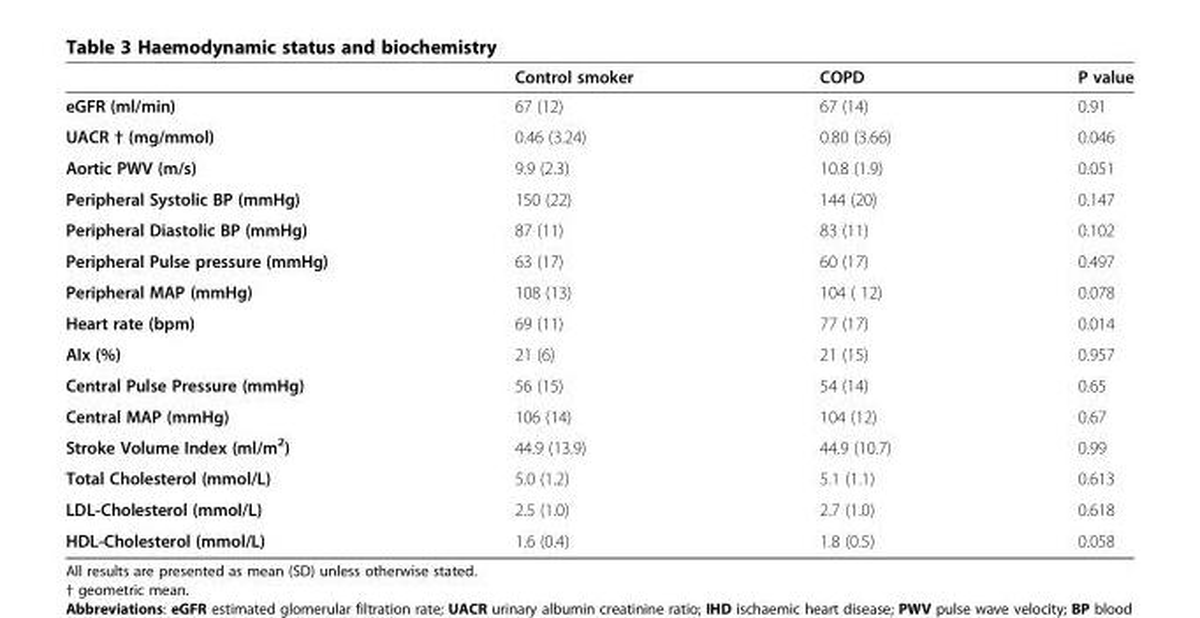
<table><thead><tr><td></td><td>Control smoker</td><td>COPD</td><td>P value</td></tr></thead><tbody><tr><td>eGFR (ml/min)</td><td>67 (12)</td><td>67 (14)</td><td>0.91</td></tr><tr><td>UACR † (mg/mmol)</td><td>0.46 (3.24)</td><td>0.80 (3.66)</td><td>0.046</td></tr><tr><td>Aortic PWV (m/s)</td><td>9.9 (2.3)</td><td>10.8 (1.9)</td><td>0.051</td></tr><tr><td>Peripheral Systolic BP (mmHg)</td><td>150 (22)</td><td>144 (20)</td><td>0.147</td></tr><tr><td>Peripheral Diastolic BP (mmHg)</td><td>87 (11)</td><td>83 (11)</td><td>0.102</td></tr><tr><td>Peripheral Pulse pressure (mmHg)</td><td>63 (17)</td><td>60 (17)</td><td>0.497</td></tr><tr><td>Peripheral MAP (mmHg)</td><td>108 (13)</td><td>104 ( 12)</td><td>0.078</td></tr><tr><td>Heart rate (bpm)</td><td>69 (11)</td><td>77 (17)</td><td>0.014</td></tr><tr><td>AIx (%)</td><td>21 (6)</td><td>21 (15)</td><td>0.957</td></tr><tr><td>Central Pulse Pressure (mmHg)</td><td>56 (15)</td><td>54 (14)</td><td>0.65</td></tr><tr><td>Central MAP (mmHg)</td><td>106 (14)</td><td>104 (12)</td><td>0.67</td></tr><tr><td>Stroke Volume Index (ml/m<sup>2</sup>)</td><td>44.9 (13.9)</td><td>44.9 (10.7)</td><td>0.99</td></tr><tr><td>Total Cholesterol (mmol/L)</td><td>5.0 (1.2)</td><td>5.1 (1.1)</td><td>0.613</td></tr><tr><td>LDL-Cholesterol (mmol/L)</td><td>2.5 (1.0)</td><td>2.7 (1.0)</td><td>0.618</td></tr><tr><td>HDL-Cholesterol (mmol/L)</td><td>1.6 (0.4)</td><td>1.8 (0.5)</td><td>0.058</td></tr></tbody></table>